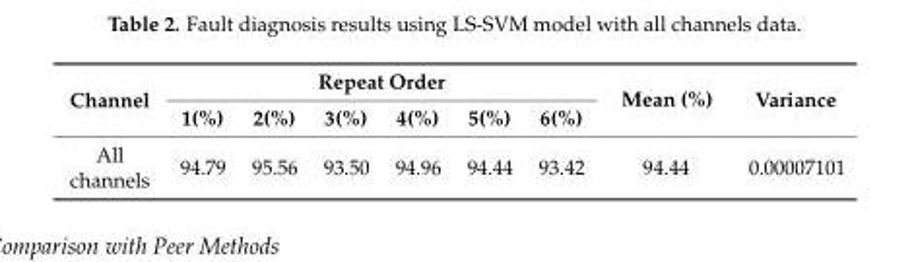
<table><thead><tr><td rowspan="2">Channel</td><td colspan="6">Repeat Order</td><td rowspan="2">Mean (%)</td><td rowspan="2">Variance</td></tr><tr><td>1(%)</td><td>2(%)</td><td>3(%)</td><td>4(%)</td><td>5(%)</td><td>6(%)</td></tr></thead><tbody><tr><td>All channels</td><td>94.79</td><td>95.56</td><td>93.50</td><td>94.96</td><td>94.44</td><td>93.42</td><td>94.44</td><td>0.00007101</td></tr></tbody></table>